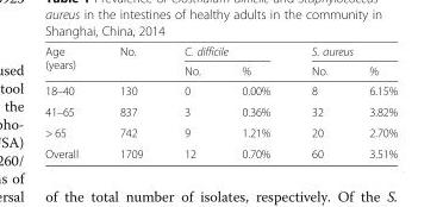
<table><thead><tr><td rowspan="2">Age (years)</td><td rowspan="2">No.</td><td colspan="2">C. difficile</td><td colspan="2">S. aureus</td></tr><tr><td>No.</td><td>%</td><td>No.</td><td>%</td></tr></thead><tbody><tr><td>18–40</td><td>130</td><td>0</td><td>0.00%</td><td>8</td><td>6.15%</td></tr><tr><td>41–65</td><td>837</td><td>3</td><td>0.36%</td><td>32</td><td>3.82%</td></tr><tr><td>&gt; 65</td><td>742</td><td>9</td><td>1.21%</td><td>20</td><td>2.70%</td></tr><tr><td>Overall</td><td>1709</td><td>12</td><td>0.70%</td><td>60</td><td>3.51%</td></tr></tbody></table>